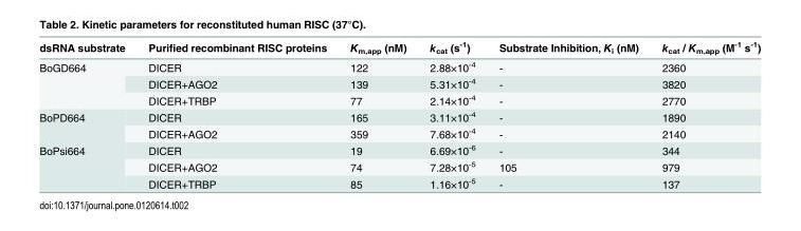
<table><thead><tr><td>dsRNA substrate</td><td>Purified recombinant RISC proteins</td><td>K<sub>m,app</sub> (nM)</td><td>k<sub>cat</sub> (s<sup>-1</sup>)</td><td>Substrate Inhibition, K<sub>i</sub> (nM)</td><td>k<sub>cat</sub> / K<sub>m,app</sub> (M<sup>-1</sup> s<sup>-1</sup>)</td></tr></thead><tbody><tr><td rowspan="3">BoGD664</td><td>DICER</td><td>122</td><td>2.88×10<sup>-4</sup></td><td>-</td><td>2360</td></tr><tr><td>DICER+AGO2</td><td>139</td><td>5.31×10<sup>-4</sup></td><td>-</td><td>3820</td></tr><tr><td>DICER+TRBP</td><td>77</td><td>2.14×10<sup>-4</sup></td><td>-</td><td>2770</td></tr><tr><td rowspan="2">BoPD664</td><td>DICER</td><td>165</td><td>3.11×10<sup>-4</sup></td><td>-</td><td>1890</td></tr><tr><td>DICER+AGO2</td><td>359</td><td>7.68×10<sup>-4</sup></td><td>-</td><td>2140</td></tr><tr><td rowspan="3">BoPsi664</td><td>DICER</td><td>19</td><td>6.69×10<sup>-6</sup></td><td>-</td><td>344</td></tr><tr><td>DICER+AGO2</td><td>74</td><td>7.28×10<sup>-5</sup></td><td>105</td><td>979</td></tr><tr><td>DICER+TRBP</td><td>85</td><td>1.16×10<sup>-5</sup></td><td>-</td><td>137</td></tr></tbody></table>